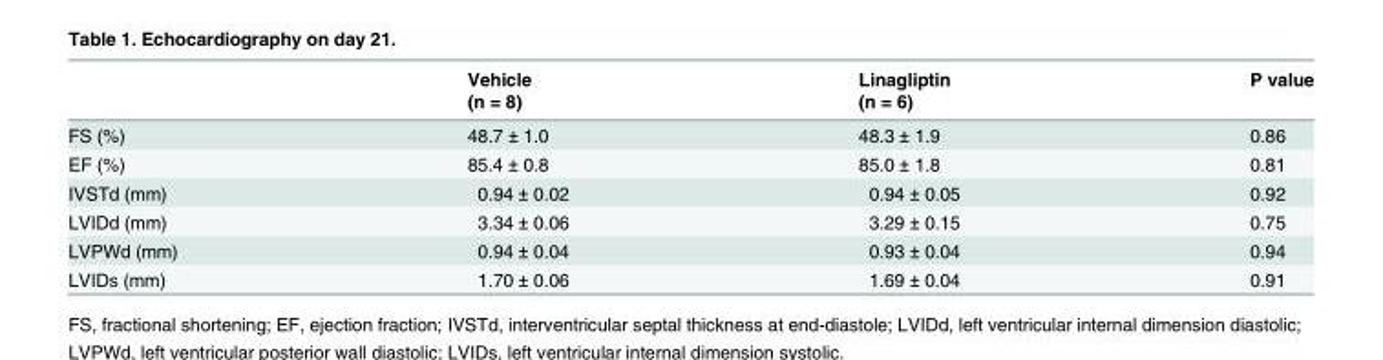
<table><thead><tr><td rowspan="2"></td><td rowspan="2">Vehicle (n = 8)</td><td rowspan="2">Linagliptin (n = 6)</td><td rowspan="2">P value</td></tr><tr></tr></thead><tbody><tr><td>FS (%)</td><td>48.7 ± 1.0</td><td>48.3 ± 1.9</td><td>0.86</td></tr><tr><td>EF (%)</td><td>85.4 ± 0.8</td><td>85.0 ± 1.8</td><td>0.81</td></tr><tr><td>IVSTd (mm)</td><td>0.94 ± 0.02</td><td>0.94 ± 0.05</td><td>0.92</td></tr><tr><td>LVIDd (mm)</td><td>3.34 ± 0.06</td><td>3.29 ± 0.15</td><td>0.75</td></tr><tr><td>LVPWd (mm)</td><td>0.94 ± 0.04</td><td>0.93 ± 0.04</td><td>0.94</td></tr><tr><td>LVIDs (mm)</td><td>1.70 ± 0.06</td><td>1.69 ± 0.04</td><td>0.91</td></tr></tbody></table>